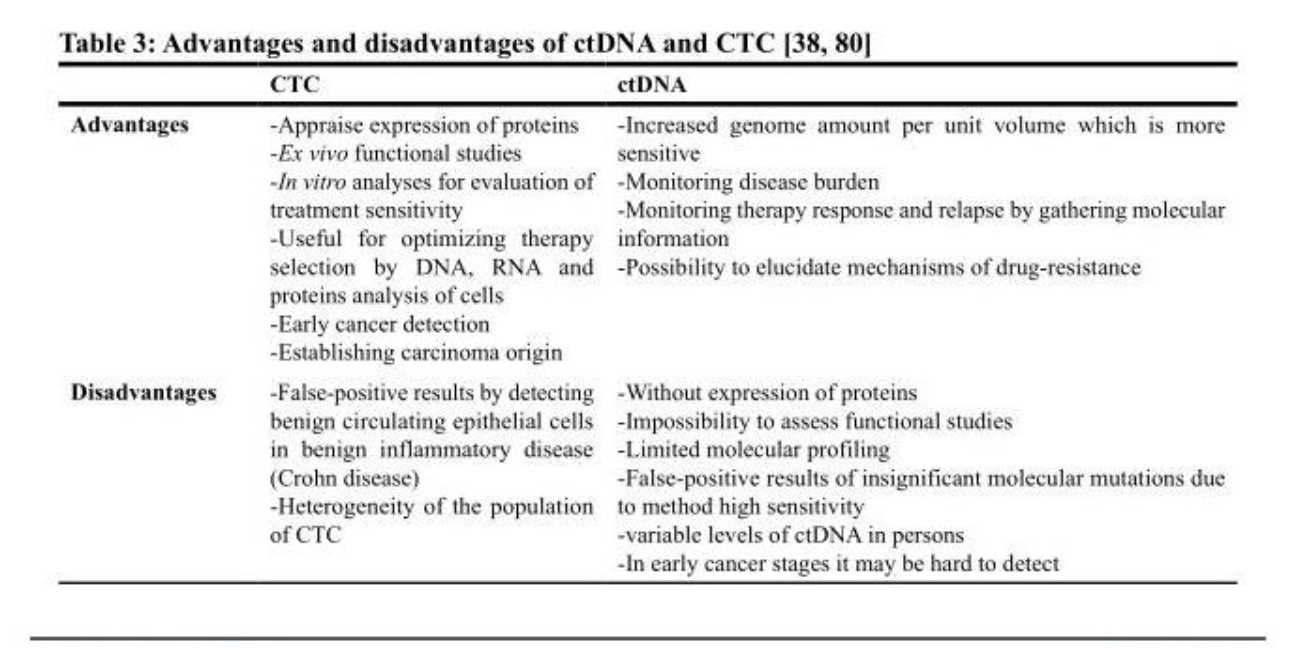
<table><thead><tr><td></td><td>CTC</td><td>ctDNA</td></tr></thead><tbody><tr><td>Advantages</td><td>-Appraise expression of proteins -Ex vivo functional studies -In vitro analyses for evaluation of treatment sensitivity -Useful for optimizing therapy selection by DNA, RNA and proteins analysis of cells -Early cancer detection -Establishing carcinoma origin</td><td>-Increased genome amount per unit volume which is more sensitive -Monitoring disease burden -Monitoring therapy response and relapse by gathering molecular information -Possibility to elucidate mechanisms of drug-resistance</td></tr><tr><td>Disadvantages</td><td>-False-positive results by detecting benign circulating epithelial cells in benign inflammatory disease (Crohn disease) -Heterogeneity of the population of CTC</td><td>-Without expression of proteins -Impossibility to assess functional studies -Limited molecular profiling -False-positive results of insignificant molecular mutations due to method high sensitivity -variable levels of ctDNA in persons -In early cancer stages it may be hard to detect</td></tr></tbody></table>